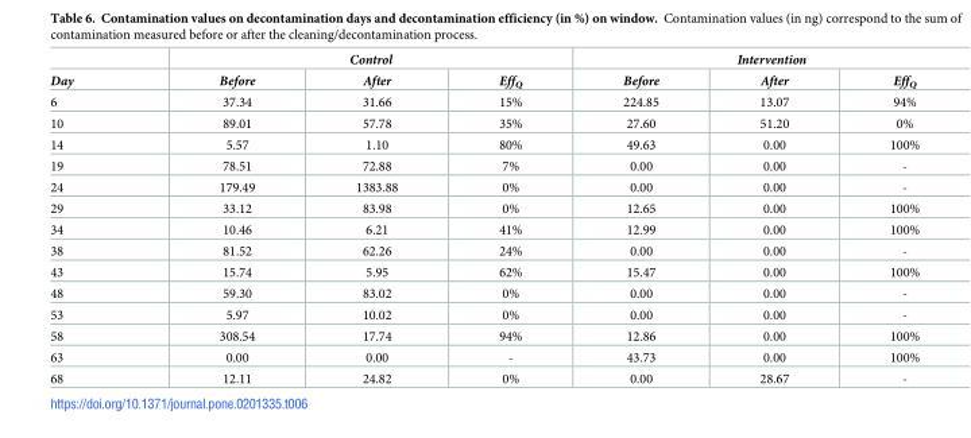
<table><thead><tr><td rowspan="2">Day</td><td colspan="3">Control</td><td colspan="3">Intervention</td></tr><tr><td>Before</td><td>After</td><td>Eff<sub>Q</sub></td><td>Before</td><td>After</td><td>Eff<sub>Q</sub></td></tr></thead><tbody><tr><td>6</td><td>37.34</td><td>31.66</td><td>15%</td><td>224.85</td><td>13.07</td><td>94%</td></tr><tr><td>10</td><td>89.01</td><td>57.78</td><td>35%</td><td>27.60</td><td>51.20</td><td>0%</td></tr><tr><td>14</td><td>5.57</td><td>1.10</td><td>80%</td><td>49.63</td><td>0.00</td><td>100%</td></tr><tr><td>19</td><td>78.51</td><td>72.88</td><td>7%</td><td>0.00</td><td>0.00</td><td>-</td></tr><tr><td>24</td><td>179.49</td><td>1383.88</td><td>0%</td><td>0.00</td><td>0.00</td><td>-</td></tr><tr><td>29</td><td>33.12</td><td>83.98</td><td>0%</td><td>12.65</td><td>0.00</td><td>100%</td></tr><tr><td>34</td><td>10.46</td><td>6.21</td><td>41%</td><td>12.99</td><td>0.00</td><td>100%</td></tr><tr><td>38</td><td>81.52</td><td>62.26</td><td>24%</td><td>0.00</td><td>0.00</td><td>-</td></tr><tr><td>43</td><td>15.74</td><td>5.95</td><td>62%</td><td>15.47</td><td>0.00</td><td>100%</td></tr><tr><td>48</td><td>59.30</td><td>83.02</td><td>0%</td><td>0.00</td><td>0.00</td><td>-</td></tr><tr><td>53</td><td>5.97</td><td>10.02</td><td>0%</td><td>0.00</td><td>0.00</td><td>-</td></tr><tr><td>58</td><td>308.54</td><td>17.74</td><td>94%</td><td>12.86</td><td>0.00</td><td>100%</td></tr><tr><td>63</td><td>0.00</td><td>0.00</td><td>-</td><td>43.73</td><td>0.00</td><td>100%</td></tr><tr><td>68</td><td>12.11</td><td>24.82</td><td>0%</td><td>0.00</td><td>28.67</td><td>-</td></tr></tbody></table>